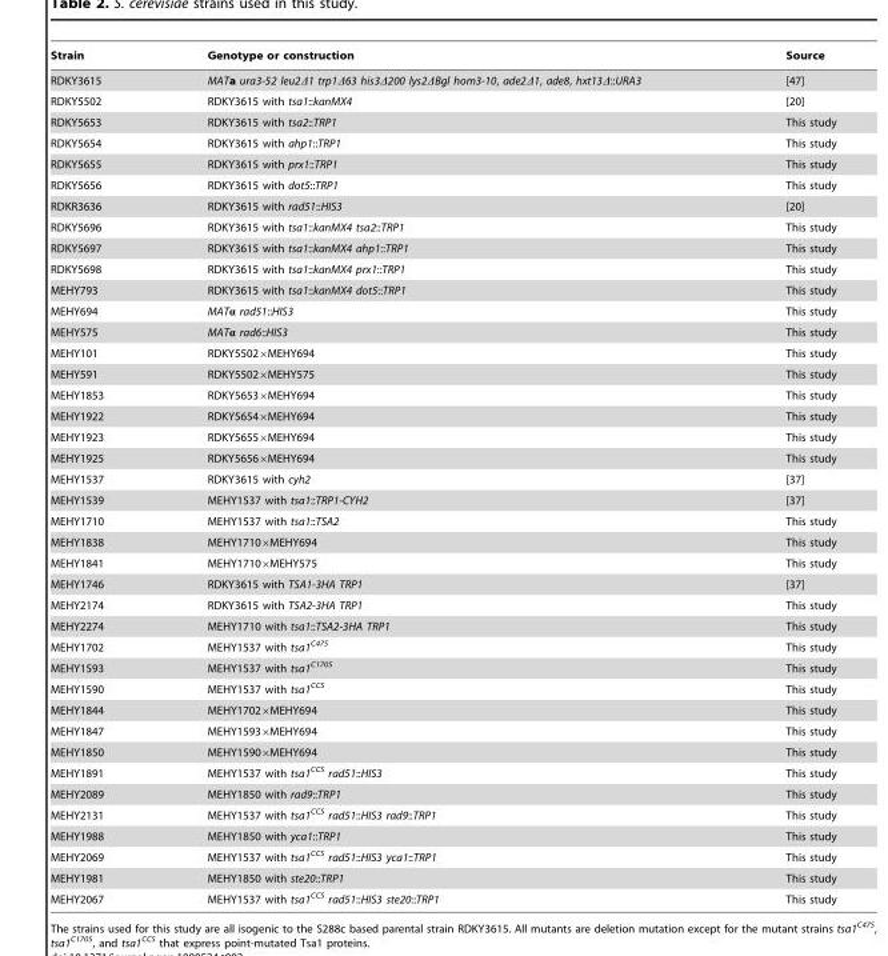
<table><thead><tr><td>Strain</td><td>Genotype or construction</td><td>Source</td></tr></thead><tbody><tr><td>RDKY3615</td><td>MATa ura3-52 leu2Δ1 trp1Δ63 his3Δ200 lys2ΔBgl hom3-10, ade2Δ1, ade8, hxt13Δ::URA3</td><td>[47]</td></tr><tr><td>RDKY5502</td><td>RDKY3615 with tsa1::kanMX4</td><td>[20]</td></tr><tr><td>RDKY5653</td><td>RDKY3615 with tsa2::TRP1</td><td>This study</td></tr><tr><td>RDKY5654</td><td>RDKY3615 with ahp1::TRP1</td><td>This study</td></tr><tr><td>RDKY5655</td><td>RDKY3615 with prx1::TRP1</td><td>This study</td></tr><tr><td>RDKY5656</td><td>RDKY3615 with dot5::TRP1</td><td>This study</td></tr><tr><td>RDKR3636</td><td>RDKY3615 with rad51::HIS3</td><td>[20]</td></tr><tr><td>RDKY5696</td><td>RDKY3615 with tsa1::kanMX4 tsa2::TRP1</td><td>This study</td></tr><tr><td>RDKY5697</td><td>RDKY3615 with tsa1::kanMX4 ahp1::TRP1</td><td>This study</td></tr><tr><td>RDKY5698</td><td>RDKY3615 with tsa1::kanMX4 prx1::TRP1</td><td>This study</td></tr><tr><td>MEHY793</td><td>RDKY3615 with tsa1::kanMX4 dot5::TRP1</td><td>This study</td></tr><tr><td>MEHY694</td><td>MATα rad51::HIS3</td><td>This study</td></tr><tr><td>MEHY575</td><td>MATα rad6::HIS3</td><td>This study</td></tr><tr><td>MEHY101</td><td>RDKY5502×MEHY694</td><td>This study</td></tr><tr><td>MEHY591</td><td>RDKY5502×MEHY575</td><td>This study</td></tr><tr><td>MEHY1853</td><td>RDKY5653×MEHY694</td><td>This study</td></tr><tr><td>MEHY1922</td><td>RDKY5654×MEHY694</td><td>This study</td></tr><tr><td>MEHY1923</td><td>RDKY5655×MEHY694</td><td>This study</td></tr><tr><td>MEHY1925</td><td>RDKY5656×MEHY694</td><td>This study</td></tr><tr><td>MEHY1537</td><td>RDKY3615 with cyh2</td><td>[37]</td></tr><tr><td>MEHY1539</td><td>MEHY1537 with tsa1::TRP1-CYH2</td><td>[37]</td></tr><tr><td>MEHY1710</td><td>MEHY1537 with tsa1::TSA2</td><td>This study</td></tr><tr><td>MEHY1838</td><td>MEHY1710×MEHY694</td><td>This study</td></tr><tr><td>MEHY1841</td><td>MEHY1710×MEHY575</td><td>This study</td></tr><tr><td>MEHY1746</td><td>RDKY3615 with TSA1-3HA TRP1</td><td>[37]</td></tr><tr><td>MEHY2174</td><td>RDKY3615 with TSA2-3HA TRP1</td><td>This study</td></tr><tr><td>MEHY2274</td><td>MEHY1710 with tsa1::TSA2-3HA TRP1</td><td>This study</td></tr><tr><td>MEHY1702</td><td>MEHY1537 with tsa1<sup>C47S</sup></td><td>This study</td></tr><tr><td>MEHY1593</td><td>MEHY1537 with tsa1<sup>C170S</sup></td><td>This study</td></tr><tr><td>MEHY1590</td><td>MEHY1537 with tsa1<sup>CCS</sup></td><td>This study</td></tr><tr><td>MEHY1844</td><td>MEHY1702×MEHY694</td><td>This study</td></tr><tr><td>MEHY1847</td><td>MEHY1593×MEHY694</td><td>This study</td></tr><tr><td>MEHY1850</td><td>MEHY1590×MEHY694</td><td>This study</td></tr><tr><td>MEHY1891</td><td>MEHY1537 with tsa1<sup>CCS</sup> rad51::HIS3</td><td>This study</td></tr><tr><td>MEHY2089</td><td>MEHY1850 with rad9::TRP1</td><td>This study</td></tr><tr><td>MEHY2131</td><td>MEHY1537 with tsa1<sup>CCS</sup> rad51::HIS3 rad9::TRP1</td><td>This study</td></tr><tr><td>MEHY1988</td><td>MEHY1850 with yca1::TRP1</td><td>This study</td></tr><tr><td>MEHY2069</td><td>MEHY1537 with tsa1<sup>CCS</sup> rad51::HIS3 yca1::TRP1</td><td>This study</td></tr><tr><td>MEHY1981</td><td>MEHY1850 with ste20::TRP1</td><td>This study</td></tr><tr><td>MEHY2067</td><td>MEHY1537 with tsa1<sup>CCS</sup> rad51::HIS3 ste20::TRP1</td><td>This study</td></tr></tbody></table>